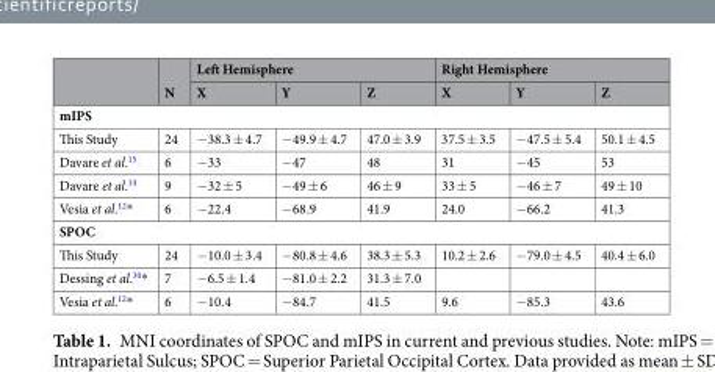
<table><thead><tr><td rowspan="2"></td><td rowspan="2">N</td><td colspan="3">Left Hemisphere</td><td colspan="3">Right Hemisphere</td></tr><tr><td>X</td><td>Y</td><td>Z</td><td>X</td><td>Y</td><td>Z</td></tr></thead><tbody><tr><td colspan="8">mIPS</td></tr><tr><td>This Study</td><td>24</td><td>−38.3 ± 4.7</td><td>−49.9 ± 4.7</td><td>47.0 ± 3.9</td><td>37.5 ± 3.5</td><td>−47.5 ± 5.4</td><td>50.1 ± 4.5</td></tr><tr><td>Davare et al.<sup>15</sup></td><td>6</td><td>−33</td><td>−47</td><td>48</td><td>31</td><td>−45</td><td>53</td></tr><tr><td>Davare et al.<sup>14</sup></td><td>9</td><td>−32 ± 5</td><td>−49 ± 6</td><td>46 ± 9</td><td>33 ± 5</td><td>−46 ± 7</td><td>49 ± 10</td></tr><tr><td>Vesia et al.<sup>12</sup>*</td><td>6</td><td>−22.4</td><td>−68.9</td><td>41.9</td><td>24.0</td><td>−66.2</td><td>41.3</td></tr><tr><td colspan="8">SPOC</td></tr><tr><td>This Study</td><td>24</td><td>−10.0 ± 3.4</td><td>−80.8 ± 4.6</td><td>38.3 ± 5.3</td><td>10.2 ± 2.6</td><td>−79.0 ± 4.5</td><td>40.4 ± 6.0</td></tr><tr><td>Dessing et al.<sup>30</sup>*</td><td>7</td><td>−6.5 ± 1.4</td><td>−81.0 ± 2.2</td><td>31.3 ± 7.0</td><td></td><td></td><td></td></tr><tr><td>Vesia et al.<sup>12</sup>*</td><td>6</td><td>−10.4</td><td>−84.7</td><td>41.5</td><td>9.6</td><td>−85.3</td><td>43.6</td></tr></tbody></table>